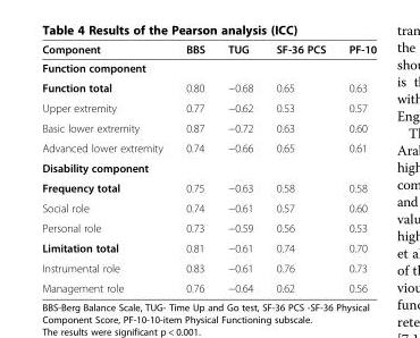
<table><thead><tr><td>Component</td><td>BBS</td><td>TUG</td><td>SF-36 PCS</td><td>PF-10</td></tr></thead><tbody><tr><td colspan="5">Function component</td></tr><tr><td>Function total</td><td>0.80</td><td>−0.68</td><td>0.65</td><td>0.63</td></tr><tr><td>Upper extremity</td><td>0.77</td><td>−0.62</td><td>0.53</td><td>0.57</td></tr><tr><td>Basic lower extremity</td><td>0.87</td><td>−0.72</td><td>0.63</td><td>0.60</td></tr><tr><td>Advanced lower extremity</td><td>0.74</td><td>−0.66</td><td>0.65</td><td>0.61</td></tr><tr><td colspan="5">Disability component</td></tr><tr><td>Frequency total</td><td>0.75</td><td>−0.63</td><td>0.58</td><td>0.58</td></tr><tr><td>Social role</td><td>0.74</td><td>−0.61</td><td>0.57</td><td>0.60</td></tr><tr><td>Personal role</td><td>0.73</td><td>−0.59</td><td>0.56</td><td>0.53</td></tr><tr><td>Limitation total</td><td>0.81</td><td>−0.61</td><td>0.74</td><td>0.70</td></tr><tr><td>Instrumental role</td><td>0.83</td><td>−0.61</td><td>0.76</td><td>0.73</td></tr><tr><td>Management role</td><td>0.76</td><td>−0.64</td><td>0.62</td><td>0.56</td></tr></tbody></table>